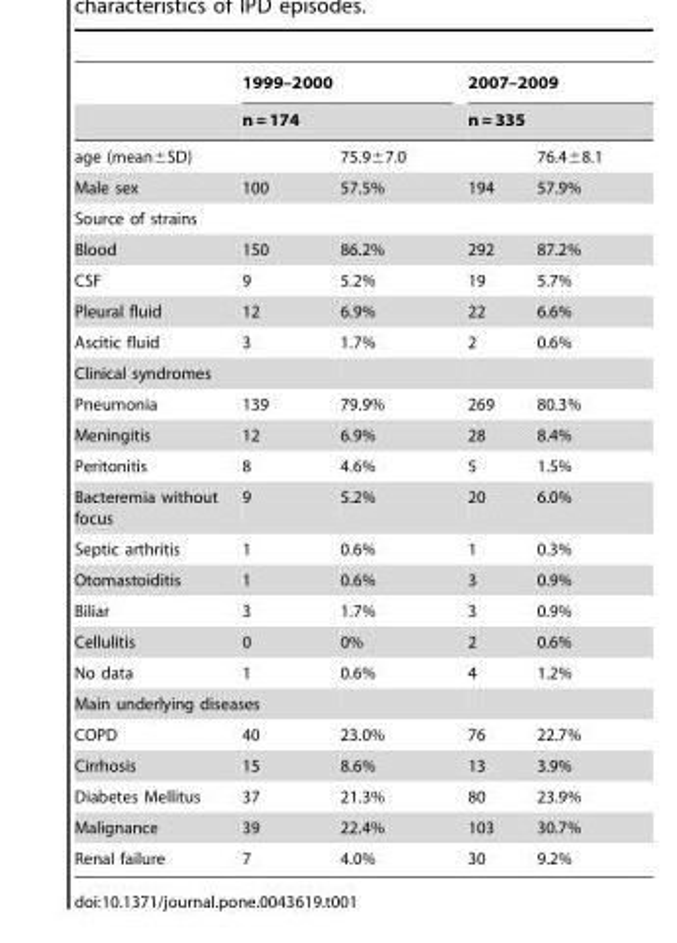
<table><thead><tr><td rowspan="3">age (mean±SD)</td><td rowspan="2" colspan="2">1999–2000 n = 174</td><td rowspan="2" colspan="2">2007–2009 n = 335</td></tr><tr></tr><tr><td></td><td>75.9±7.0</td><td></td><td>76.4±8.1</td></tr></thead><tbody><tr><td>Male sex</td><td>100</td><td>57.5%</td><td>194</td><td>57.9%</td></tr><tr><td colspan="5">Source of strains</td></tr><tr><td>Blood</td><td>150</td><td>86.2%</td><td>292</td><td>87.2%</td></tr><tr><td>CSF</td><td>9</td><td>5.2%</td><td>19</td><td>5.7%</td></tr><tr><td>Pleural fluid</td><td>12</td><td>6.9%</td><td>22</td><td>6.6%</td></tr><tr><td>Ascitic fluid</td><td>3</td><td>1.7%</td><td>2</td><td>0.6%</td></tr><tr><td colspan="5">Clinical syndromes</td></tr><tr><td>Pneumonia</td><td>139</td><td>79.9%</td><td>269</td><td>80.3%</td></tr><tr><td>Meningitis</td><td>12</td><td>6.9%</td><td>28</td><td>8.4%</td></tr><tr><td>Peritonitis</td><td>8</td><td>4.6%</td><td>5</td><td>1.5%</td></tr><tr><td>Bacteremia without focus</td><td>9</td><td>5.2%</td><td>20</td><td>6.0%</td></tr><tr><td>Septic arthritis</td><td>1</td><td>0.6%</td><td>1</td><td>0.3%</td></tr><tr><td>Otomastoiditis</td><td>1</td><td>0.6%</td><td>3</td><td>0.9%</td></tr><tr><td>Biliar</td><td>3</td><td>1.7%</td><td>3</td><td>0.9%</td></tr><tr><td>Cellulitis</td><td>0</td><td>0%</td><td>2</td><td>0.6%</td></tr><tr><td>No data</td><td>1</td><td>0.6%</td><td>4</td><td>1.2%</td></tr><tr><td colspan="5">Main underlying diseases</td></tr><tr><td>COPD</td><td>40</td><td>23.0%</td><td>76</td><td>22.7%</td></tr><tr><td>Cirrhosis</td><td>15</td><td>8.6%</td><td>13</td><td>3.9%</td></tr><tr><td>Diabetes Mellitus</td><td>37</td><td>21.3%</td><td>80</td><td>23.9%</td></tr><tr><td>Malignance</td><td>39</td><td>22.4%</td><td>103</td><td>30.7%</td></tr><tr><td>Renal failure</td><td>7</td><td>4.0%</td><td>30</td><td>9.2%</td></tr></tbody></table>